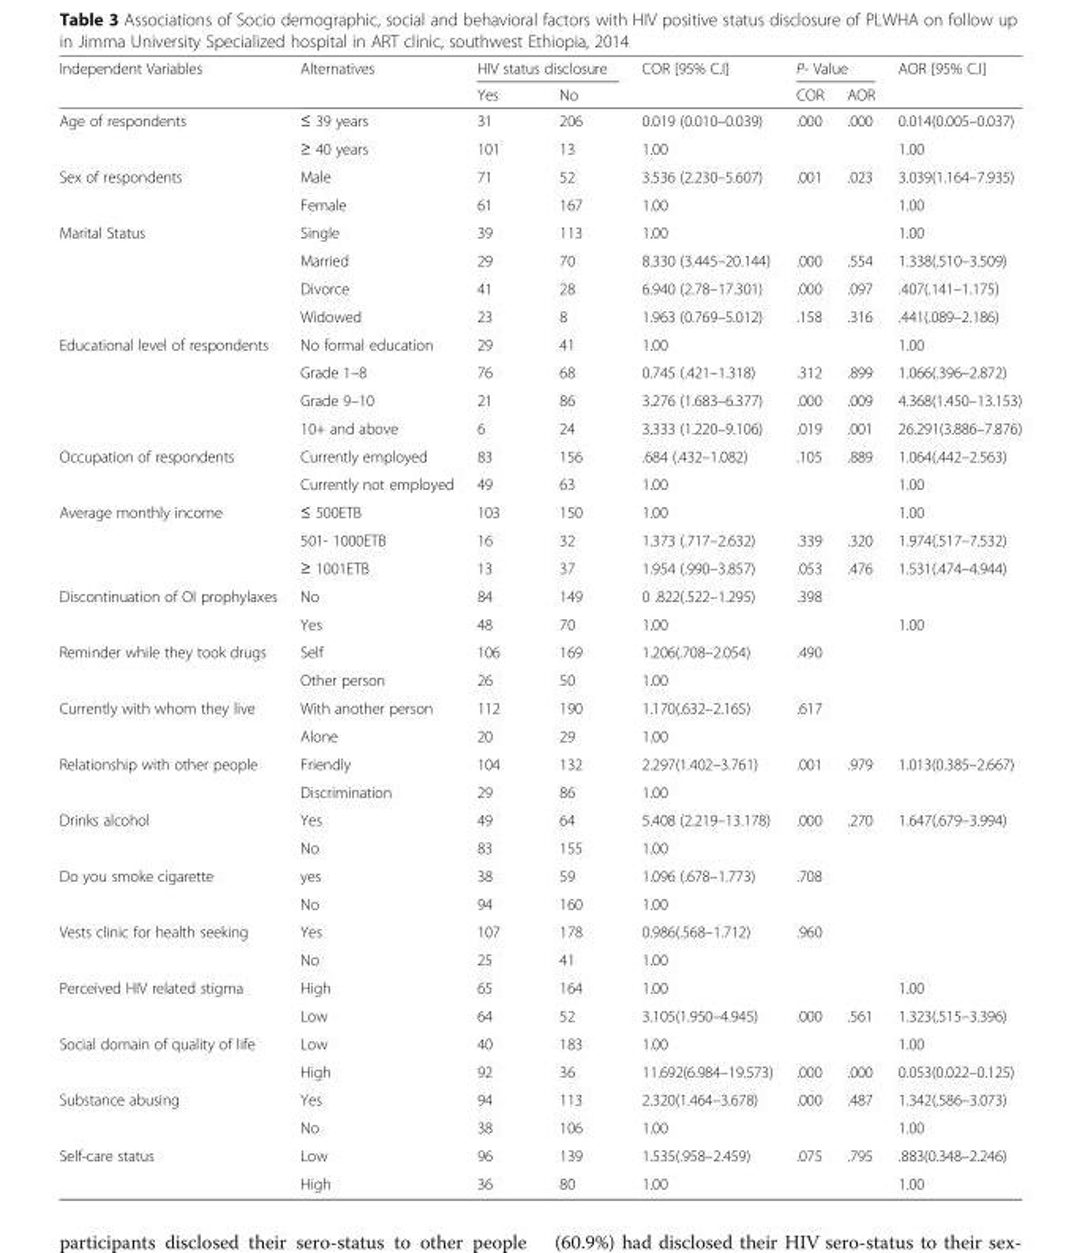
<table><thead><tr><td rowspan="2">Independent Variables</td><td rowspan="2">Alternatives</td><td colspan="2">HIV status disclosure</td><td rowspan="2">COR [95% C.I]</td><td colspan="2">P- Value</td><td rowspan="2">AOR [95% C.I]</td></tr><tr><td>Yes</td><td>No</td><td>COR</td><td>AOR</td></tr></thead><tbody><tr><td rowspan="2">Age of respondents</td><td>≤ 39 years</td><td>31</td><td>206</td><td>0.019 (0.010–0.039)</td><td>.000</td><td>.000</td><td>0.014(0.005–0.037)</td></tr><tr><td>≥ 40 years</td><td>101</td><td>13</td><td>1.00</td><td></td><td></td><td>1.00</td></tr><tr><td rowspan="2">Sex of respondents</td><td>Male</td><td>71</td><td>52</td><td>3.536 (2.230–5.607)</td><td>.001</td><td>.023</td><td>3.039(1.164–7.935)</td></tr><tr><td>Female</td><td>61</td><td>167</td><td>1.00</td><td></td><td></td><td>1.00</td></tr><tr><td rowspan="4">Marital Status</td><td>Single</td><td>39</td><td>113</td><td>1.00</td><td></td><td></td><td>1.00</td></tr><tr><td>Married</td><td>29</td><td>70</td><td>8.330 (3.445–20.144)</td><td>.000</td><td>.554</td><td>1.338(.510–3.509)</td></tr><tr><td>Divorce</td><td>41</td><td>28</td><td>6.940 (2.78–17.301)</td><td>.000</td><td>.097</td><td>.407(.141–1.175)</td></tr><tr><td>Widowed</td><td>23</td><td>8</td><td>1.963 (0.769–5.012)</td><td>.158</td><td>.316</td><td>.441(.089–2.186)</td></tr><tr><td rowspan="4">Educational level of respondents</td><td>No formal education</td><td>29</td><td>41</td><td>1.00</td><td></td><td></td><td>1.00</td></tr><tr><td>Grade 1–8</td><td>76</td><td>68</td><td>0.745 (.421–1.318)</td><td>.312</td><td>.899</td><td>1.066(.396–2.872)</td></tr><tr><td>Grade 9–10</td><td>21</td><td>86</td><td>3.276 (1.683–6.377)</td><td>.000</td><td>.009</td><td>4.368(1.450–13.153)</td></tr><tr><td>10+ and above</td><td>6</td><td>24</td><td>3.333 (1.220–9.106)</td><td>.019</td><td>.001</td><td>26.291(3.886–7.876)</td></tr><tr><td rowspan="2">Occupation of respondents</td><td>Currently employed</td><td>83</td><td>156</td><td>.684 (.432–1.082)</td><td>.105</td><td>.889</td><td>1.064(.442–2.563)</td></tr><tr><td>Currently not employed</td><td>49</td><td>63</td><td>1.00</td><td></td><td></td><td>1.00</td></tr><tr><td rowspan="3">Average monthly income</td><td>≤ 500ETB</td><td>103</td><td>150</td><td>1.00</td><td></td><td></td><td>1.00</td></tr><tr><td>501- 1000ETB</td><td>16</td><td>32</td><td>1.373 (.717–2.632)</td><td>.339</td><td>.320</td><td>1.974(.517–7.532)</td></tr><tr><td>≥ 1001ETB</td><td>13</td><td>37</td><td>1.954 (.990–3.857)</td><td>.053</td><td>.476</td><td>1.531(.474–4.944)</td></tr><tr><td rowspan="2">Discontinuation of OI prophylaxes</td><td>No</td><td>84</td><td>149</td><td>0 .822(.522–1.295)</td><td>.398</td><td></td><td></td></tr><tr><td>Yes</td><td>48</td><td>70</td><td>1.00</td><td></td><td></td><td>1.00</td></tr><tr><td rowspan="2">Reminder while they took drugs</td><td>Self</td><td>106</td><td>169</td><td>1.206(.708–2.054)</td><td>.490</td><td></td><td></td></tr><tr><td>Other person</td><td>26</td><td>50</td><td>1.00</td><td></td><td></td><td></td></tr><tr><td rowspan="2">Currently with whom they live</td><td>With another person</td><td>112</td><td>190</td><td>1.170(.632–2.165)</td><td>.617</td><td></td><td></td></tr><tr><td>Alone</td><td>20</td><td>29</td><td>1.00</td><td></td><td></td><td></td></tr><tr><td rowspan="2">Relationship with other people</td><td>Friendly</td><td>104</td><td>132</td><td>2.297(1.402–3.761)</td><td>.001</td><td>.979</td><td>1.013(0.385–2.667)</td></tr><tr><td>Discrimination</td><td>29</td><td>86</td><td>1.00</td><td></td><td></td><td></td></tr><tr><td rowspan="2">Drinks alcohol</td><td>Yes</td><td>49</td><td>64</td><td>5.408 (2.219–13.178)</td><td>.000</td><td>.270</td><td>1.647(.679–3.994)</td></tr><tr><td>No</td><td>83</td><td>155</td><td>1.00</td><td></td><td></td><td></td></tr><tr><td rowspan="2">Do you smoke cigarette</td><td>yes</td><td>38</td><td>59</td><td>1.096 (.678–1.773)</td><td>.708</td><td></td><td></td></tr><tr><td>No</td><td>94</td><td>160</td><td>1.00</td><td></td><td></td><td></td></tr><tr><td rowspan="2">Vests clinic for health seeking</td><td>Yes</td><td>107</td><td>178</td><td>0.986(.568–1.712)</td><td>.960</td><td></td><td></td></tr><tr><td>No</td><td>25</td><td>41</td><td>1.00</td><td></td><td></td><td></td></tr><tr><td rowspan="2">Perceived HIV related stigma</td><td>High</td><td>65</td><td>164</td><td>1.00</td><td></td><td></td><td>1.00</td></tr><tr><td>Low</td><td>64</td><td>52</td><td>3.105(1.950–4.945)</td><td>.000</td><td>.561</td><td>1.323(.515–3.396)</td></tr><tr><td rowspan="2">Social domain of quality of life</td><td>Low</td><td>40</td><td>183</td><td>1.00</td><td></td><td></td><td>1.00</td></tr><tr><td>High</td><td>92</td><td>36</td><td>11.692(6.984–19.573)</td><td>.000</td><td>.000</td><td>0.053(0.022–0.125)</td></tr><tr><td rowspan="2">Substance abusing</td><td>Yes</td><td>94</td><td>113</td><td>2.320(1.464–3.678)</td><td>.000</td><td>.487</td><td>1.342(.586–3.073)</td></tr><tr><td>No</td><td>38</td><td>106</td><td>1.00</td><td></td><td></td><td>1.00</td></tr><tr><td rowspan="2">Self-care status</td><td>Low</td><td>96</td><td>139</td><td>1.535(.958–2.459)</td><td>.075</td><td>.795</td><td>.883(0.348–2.246)</td></tr><tr><td>High</td><td>36</td><td>80</td><td>1.00</td><td></td><td></td><td>1.00</td></tr></tbody></table>